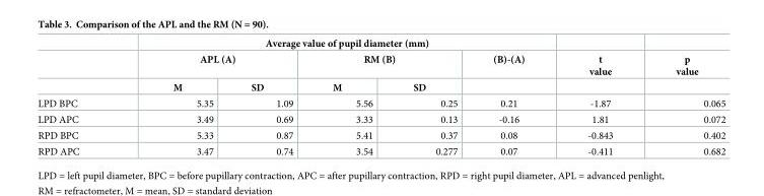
<table><thead><tr><td rowspan="3"></td><td colspan="5">Average value of pupil diameter (mm)</td><td rowspan="3">t value</td><td rowspan="3">p value</td></tr><tr><td colspan="2">APL (A)</td><td colspan="2">RM (B)</td><td rowspan="2">(B)-(A)</td></tr><tr><td>M</td><td>SD</td><td>M</td><td>SD</td></tr></thead><tbody><tr><td>LPD BPC</td><td>5.35</td><td>1.09</td><td>5.56</td><td>0.25</td><td>0.21</td><td>-1.87</td><td>0.065</td></tr><tr><td>LPD APC</td><td>3.49</td><td>0.69</td><td>3.33</td><td>0.13</td><td>-0.16</td><td>1.81</td><td>0.072</td></tr><tr><td>RPD BPC</td><td>5.33</td><td>0.87</td><td>5.41</td><td>0.37</td><td>0.08</td><td>-0.843</td><td>0.402</td></tr><tr><td>RPD APC</td><td>3.47</td><td>0.74</td><td>3.54</td><td>0.277</td><td>0.07</td><td>-0.411</td><td>0.682</td></tr></tbody></table>